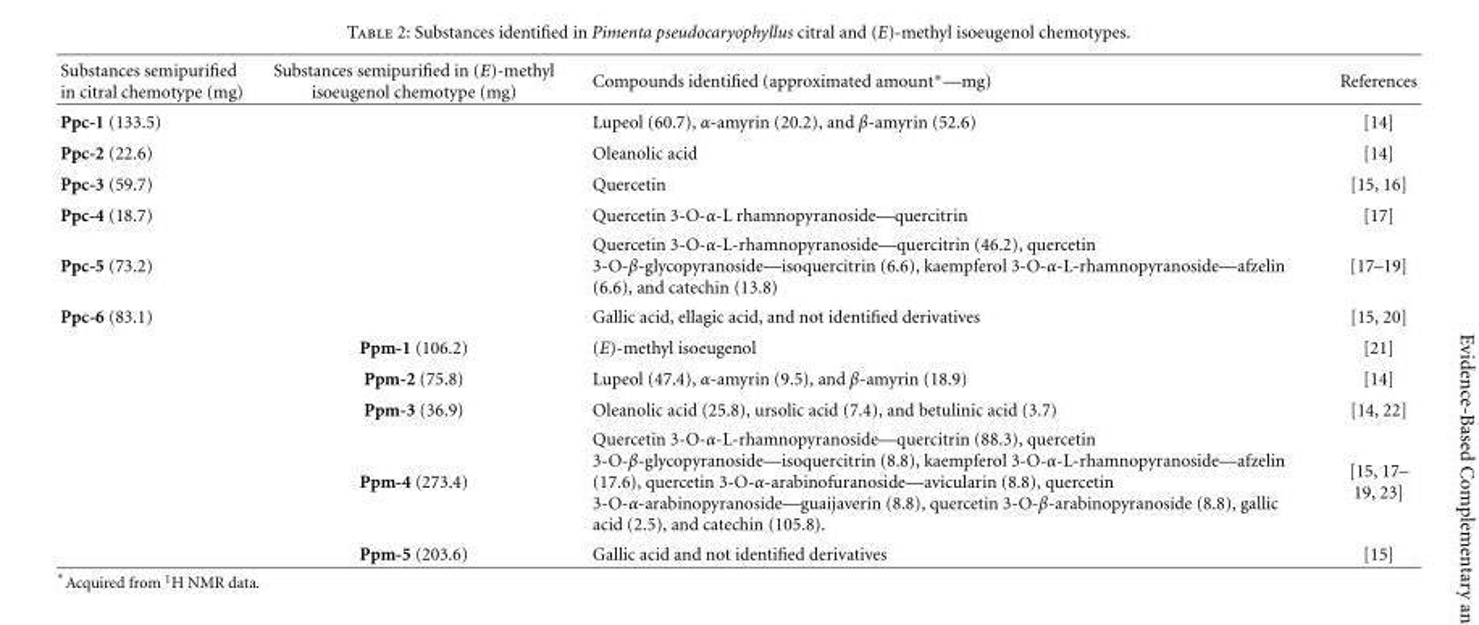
<table><thead><tr><td>Substances semipurified in citral chemotype (mg)</td><td>Substances semipurified in (E)-methyl isoeugenol chemotype (mg)</td><td>Compounds identified (approximated amount∗—mg)</td><td>References</td></tr></thead><tbody><tr><td>Ppc-1 (133.5)</td><td></td><td>Lupeol (60.7), α-amyrin (20.2), and β-amyrin (52.6)</td><td>[14]</td></tr><tr><td>Ppc-2 (22.6)</td><td></td><td>Oleanolic acid</td><td>[14]</td></tr><tr><td>Ppc-3 (59.7)</td><td></td><td>Quercetin</td><td>[15, 16]</td></tr><tr><td>Ppc-4 (18.7)</td><td></td><td>Quercetin 3-O-α-L rhamnopyranoside—quercitrin</td><td>[17]</td></tr><tr><td>Ppc-5 (73.2)</td><td></td><td>Quercetin 3-O-α-L-rhamnopyranoside—quercitrin (46.2), quercetin 3-O-β-glycopyranoside—isoquercitrin (6.6), kaempferol 3-O-α-L-rhamnopyranoside—afzelin (6.6), and catechin (13.8)</td><td>[17–19]</td></tr><tr><td rowspan="6">Ppc-6 (83.1)</td><td></td><td>Gallic acid, ellagic acid, and not identified derivatives</td><td>[15, 20]</td></tr><tr><td>Ppm-1 (106.2)</td><td>(E)-methyl isoeugenol</td><td>[21]</td></tr><tr><td>Ppm-2 (75.8)</td><td>Lupeol (47.4), α-amyrin (9.5), and β-amyrin (18.9)</td><td>[14]</td></tr><tr><td>Ppm-3 (36.9)</td><td>Oleanolic acid (25.8), ursolic acid (7.4), and betulinic acid (3.7)</td><td>[14, 22]</td></tr><tr><td>Ppm-4 (273.4)</td><td>Quercetin 3-O-α-L-rhamnopyranoside—quercitrin (88.3), quercetin 3-O-β-glycopyranoside—isoquercitrin (8.8), kaempferol 3-O-α-L-rhamnopyranoside—afzelin (17.6), quercetin 3-O-α-arabinofuranoside—avicularin (8.8), quercetin 3-O-α-arabinopyranoside—guaijaverin (8.8), quercetin 3-O-β-arabinopyranoside (8.8), gallic acid (2.5), and catechin (105.8).</td><td>[15, 17– 19, 23]</td></tr><tr><td>Ppm-5 (203.6)</td><td>Gallic acid and not identified derivatives</td><td>[15]</td></tr></tbody></table>